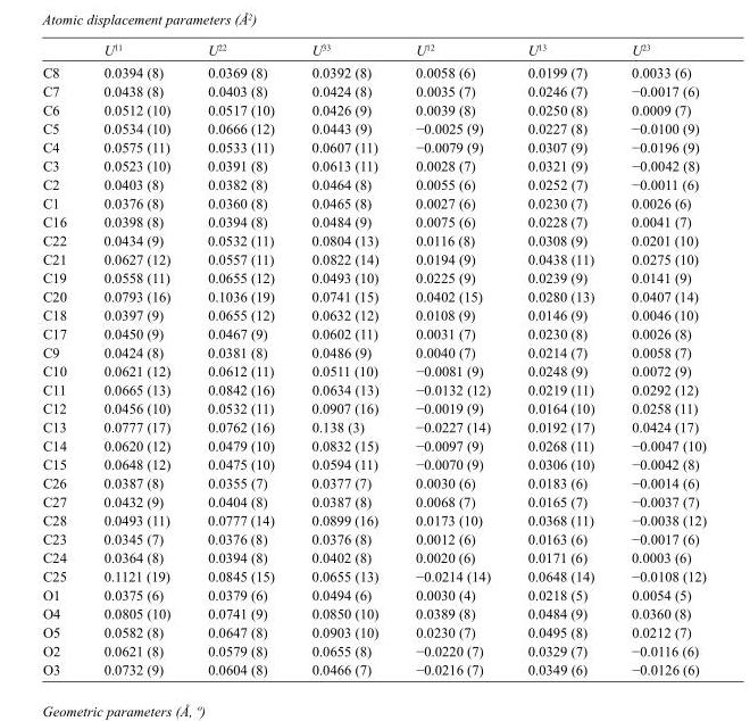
<table><thead><tr><td></td><td>U<sup>11</sup></td><td>U<sup>22</sup></td><td>U<sup>33</sup></td><td>U<sup>12</sup></td><td>U<sup>13</sup></td><td>U<sup>23</sup></td></tr></thead><tbody><tr><td>C8</td><td>0.0394 (8)</td><td>0.0369 (8)</td><td>0.0392 (8)</td><td>0.0058 (6)</td><td>0.0199 (7)</td><td>0.0033 (6)</td></tr><tr><td>C7</td><td>0.0438 (8)</td><td>0.0403 (8)</td><td>0.0424 (8)</td><td>0.0035 (7)</td><td>0.0246 (7)</td><td>−0.0017 (6)</td></tr><tr><td>C6</td><td>0.0512 (10)</td><td>0.0517 (10)</td><td>0.0426 (9)</td><td>0.0039 (8)</td><td>0.0250 (8)</td><td>0.0009 (7)</td></tr><tr><td>C5</td><td>0.0534 (10)</td><td>0.0666 (12)</td><td>0.0443 (9)</td><td>−0.0025 (9)</td><td>0.0227 (8)</td><td>−0.0100 (9)</td></tr><tr><td>C4</td><td>0.0575 (11)</td><td>0.0533 (11)</td><td>0.0607 (11)</td><td>−0.0079 (9)</td><td>0.0307 (9)</td><td>−0.0196 (9)</td></tr><tr><td>C3</td><td>0.0523 (10)</td><td>0.0391 (8)</td><td>0.0613 (11)</td><td>0.0028 (7)</td><td>0.0321 (9)</td><td>−0.0042 (8)</td></tr><tr><td>C2</td><td>0.0403 (8)</td><td>0.0382 (8)</td><td>0.0464 (8)</td><td>0.0055 (6)</td><td>0.0252 (7)</td><td>−0.0011 (6)</td></tr><tr><td>C1</td><td>0.0376 (8)</td><td>0.0360 (8)</td><td>0.0465 (8)</td><td>0.0027 (6)</td><td>0.0230 (7)</td><td>0.0026 (6)</td></tr><tr><td>C16</td><td>0.0398 (8)</td><td>0.0394 (8)</td><td>0.0484 (9)</td><td>0.0075 (6)</td><td>0.0228 (7)</td><td>0.0041 (7)</td></tr><tr><td>C22</td><td>0.0434 (9)</td><td>0.0532 (11)</td><td>0.0804 (13)</td><td>0.0116 (8)</td><td>0.0308 (9)</td><td>0.0201 (10)</td></tr><tr><td>C21</td><td>0.0627 (12)</td><td>0.0557 (11)</td><td>0.0822 (14)</td><td>0.0194 (9)</td><td>0.0438 (11)</td><td>0.0275 (10)</td></tr><tr><td>C19</td><td>0.0558 (11)</td><td>0.0655 (12)</td><td>0.0493 (10)</td><td>0.0225 (9)</td><td>0.0239 (9)</td><td>0.0141 (9)</td></tr><tr><td>C20</td><td>0.0793 (16)</td><td>0.1036 (19)</td><td>0.0741 (15)</td><td>0.0402 (15)</td><td>0.0280 (13)</td><td>0.0407 (14)</td></tr><tr><td>C18</td><td>0.0397 (9)</td><td>0.0655 (12)</td><td>0.0632 (12)</td><td>0.0108 (9)</td><td>0.0146 (9)</td><td>0.0046 (10)</td></tr><tr><td>C17</td><td>0.0450 (9)</td><td>0.0467 (9)</td><td>0.0602 (11)</td><td>0.0031 (7)</td><td>0.0230 (8)</td><td>0.0026 (8)</td></tr><tr><td>C9</td><td>0.0424 (8)</td><td>0.0381 (8)</td><td>0.0486 (9)</td><td>0.0040 (7)</td><td>0.0214 (7)</td><td>0.0058 (7)</td></tr><tr><td>C10</td><td>0.0621 (12)</td><td>0.0612 (11)</td><td>0.0511 (10)</td><td>−0.0081 (9)</td><td>0.0248 (9)</td><td>0.0072 (9)</td></tr><tr><td>C11</td><td>0.0665 (13)</td><td>0.0842 (16)</td><td>0.0634 (13)</td><td>−0.0132 (12)</td><td>0.0219 (11)</td><td>0.0292 (12)</td></tr><tr><td>C12</td><td>0.0456 (10)</td><td>0.0532 (11)</td><td>0.0907 (16)</td><td>−0.0019 (9)</td><td>0.0164 (10)</td><td>0.0258 (11)</td></tr><tr><td>C13</td><td>0.0777 (17)</td><td>0.0762 (16)</td><td>0.138 (3)</td><td>−0.0227 (14)</td><td>0.0192 (17)</td><td>0.0424 (17)</td></tr><tr><td>C14</td><td>0.0620 (12)</td><td>0.0479 (10)</td><td>0.0832 (15)</td><td>−0.0097 (9)</td><td>0.0268 (11)</td><td>−0.0047 (10)</td></tr><tr><td>C15</td><td>0.0648 (12)</td><td>0.0475 (10)</td><td>0.0594 (11)</td><td>−0.0070 (9)</td><td>0.0306 (10)</td><td>−0.0042 (8)</td></tr><tr><td>C26</td><td>0.0387 (8)</td><td>0.0355 (7)</td><td>0.0377 (7)</td><td>0.0030 (6)</td><td>0.0183 (6)</td><td>−0.0014 (6)</td></tr><tr><td>C27</td><td>0.0432 (9)</td><td>0.0404 (8)</td><td>0.0387 (8)</td><td>0.0068 (7)</td><td>0.0165 (7)</td><td>−0.0037 (7)</td></tr><tr><td>C28</td><td>0.0493 (11)</td><td>0.0777 (14)</td><td>0.0899 (16)</td><td>0.0173 (10)</td><td>0.0368 (11)</td><td>−0.0038 (12)</td></tr><tr><td>C23</td><td>0.0345 (7)</td><td>0.0376 (8)</td><td>0.0376 (8)</td><td>0.0012 (6)</td><td>0.0163 (6)</td><td>−0.0017 (6)</td></tr><tr><td>C24</td><td>0.0364 (8)</td><td>0.0394 (8)</td><td>0.0402 (8)</td><td>0.0020 (6)</td><td>0.0171 (6)</td><td>0.0003 (6)</td></tr><tr><td>C25</td><td>0.1121 (19)</td><td>0.0845 (15)</td><td>0.0655 (13)</td><td>−0.0214 (14)</td><td>0.0648 (14)</td><td>−0.0108 (12)</td></tr><tr><td>O1</td><td>0.0375 (6)</td><td>0.0379 (6)</td><td>0.0494 (6)</td><td>0.0030 (4)</td><td>0.0218 (5)</td><td>0.0054 (5)</td></tr><tr><td>O4</td><td>0.0805 (10)</td><td>0.0741 (9)</td><td>0.0850 (10)</td><td>0.0389 (8)</td><td>0.0484 (9)</td><td>0.0360 (8)</td></tr><tr><td>O5</td><td>0.0582 (8)</td><td>0.0647 (8)</td><td>0.0903 (10)</td><td>0.0230 (7)</td><td>0.0495 (8)</td><td>0.0212 (7)</td></tr><tr><td>O2</td><td>0.0621 (8)</td><td>0.0579 (8)</td><td>0.0655 (8)</td><td>−0.0220 (7)</td><td>0.0329 (7)</td><td>−0.0116 (6)</td></tr><tr><td>O3</td><td>0.0732 (9)</td><td>0.0604 (8)</td><td>0.0466 (7)</td><td>−0.0216 (7)</td><td>0.0349 (6)</td><td>−0.0126 (6)</td></tr></tbody></table>